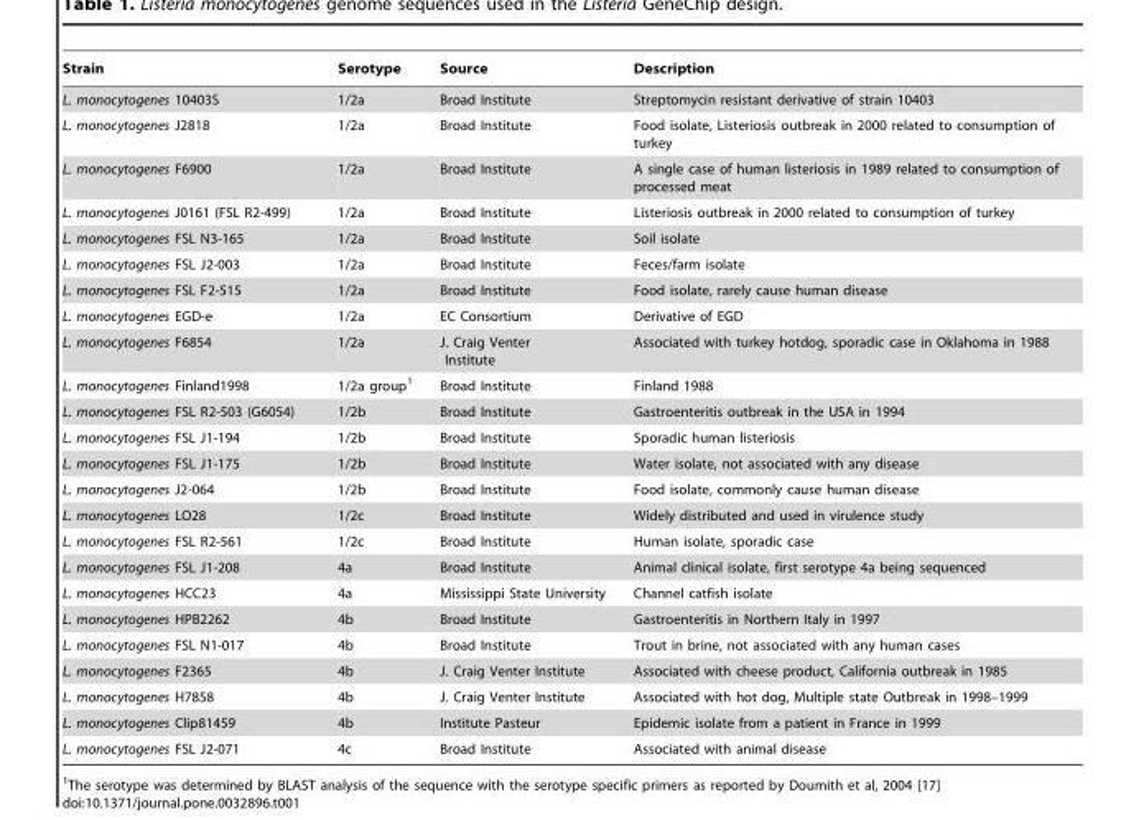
<table><thead><tr><td>Strain</td><td>Serotype</td><td>Source</td><td>Description</td></tr></thead><tbody><tr><td>L. monocytogenes 10403S</td><td>1/2a</td><td>Broad Institute</td><td>Streptomycin resistant derivative of strain 10403</td></tr><tr><td>L. monocytogenes J2818</td><td>1/2a</td><td>Broad Institute</td><td>Food isolate, Listeriosis outbreak in 2000 related to consumption of turkey</td></tr><tr><td>L. monocytogenes F6900</td><td>1/2a</td><td>Broad Institute</td><td>A single case of human listeriosis in 1989 related to consumption of processed meat</td></tr><tr><td>L. monocytogenes J0161 (FSL R2-499)</td><td>1/2a</td><td>Broad Institute</td><td>Listeriosis outbreak in 2000 related to consumption of turkey</td></tr><tr><td>L. monocytogenes FSL N3-165</td><td>1/2a</td><td>Broad Institute</td><td>Soil isolate</td></tr><tr><td>L. monocytogenes FSL J2-003</td><td>1/2a</td><td>Broad Institute</td><td>Feces/farm isolate</td></tr><tr><td>L. monocytogenes FSL F2-515</td><td>1/2a</td><td>Broad Institute</td><td>Food isolate, rarely cause human disease</td></tr><tr><td>L. monocytogenes EGD-e</td><td>1/2a</td><td>EC Consortium</td><td>Derivative of EGD</td></tr><tr><td>L. monocytogenes F6854</td><td>1/2a</td><td>J. Craig Venter Institute</td><td>Associated with turkey hotdog, sporadic case in Oklahoma in 1988</td></tr><tr><td>L. monocytogenes Finland1998</td><td>1/2a group<sup>1</sup></td><td>Broad Institute</td><td>Finland 1988</td></tr><tr><td>L. monocytogenes FSL R2-503 (G6054)</td><td>1/2b</td><td>Broad Institute</td><td>Gastroenteritis outbreak in the USA in 1994</td></tr><tr><td>L. monocytogenes FSL J1-194</td><td>1/2b</td><td>Broad Institute</td><td>Sporadic human listeriosis</td></tr><tr><td>L. monocytogenes FSL J1-175</td><td>1/2b</td><td>Broad Institute</td><td>Water isolate, not associated with any disease</td></tr><tr><td>L. monocytogenes J2-064</td><td>1/2b</td><td>Broad Institute</td><td>Food isolate, commonly cause human disease</td></tr><tr><td>L. monocytogenes LO28</td><td>1/2c</td><td>Broad Institute</td><td>Widely distributed and used in virulence study</td></tr><tr><td>L. monocytogenes FSL R2-561</td><td>1/2c</td><td>Broad Institute</td><td>Human isolate, sporadic case</td></tr><tr><td>L. monocytogenes FSL J1-208</td><td>4a</td><td>Broad Institute</td><td>Animal clinical isolate, first serotype 4a being sequenced</td></tr><tr><td>L. monocytogenes HCC23</td><td>4a</td><td>Mississippi State University</td><td>Channel catfish isolate</td></tr><tr><td>L. monocytogenes HPB2262</td><td>4b</td><td>Broad Institute</td><td>Gastroenteritis in Northern Italy in 1997</td></tr><tr><td>L. monocytogenes FSL N1-017</td><td>4b</td><td>Broad Institute</td><td>Trout in brine, not associated with any human cases</td></tr><tr><td>L. monocytogenes F2365</td><td>4b</td><td>J. Craig Venter Institute</td><td>Associated with cheese product, California outbreak in 1985</td></tr><tr><td>L. monocytogenes H7858</td><td>4b</td><td>J. Craig Venter Institute</td><td>Associated with hot dog, Multiple state Outbreak in 1998–1999</td></tr><tr><td>L. monocytogenes Clip81459</td><td>4b</td><td>Institute Pasteur</td><td>Epidemic isolate from a patient in France in 1999</td></tr><tr><td>L. monocytogenes FSL J2-071</td><td>4c</td><td>Broad Institute</td><td>Associated with animal disease</td></tr></tbody></table>